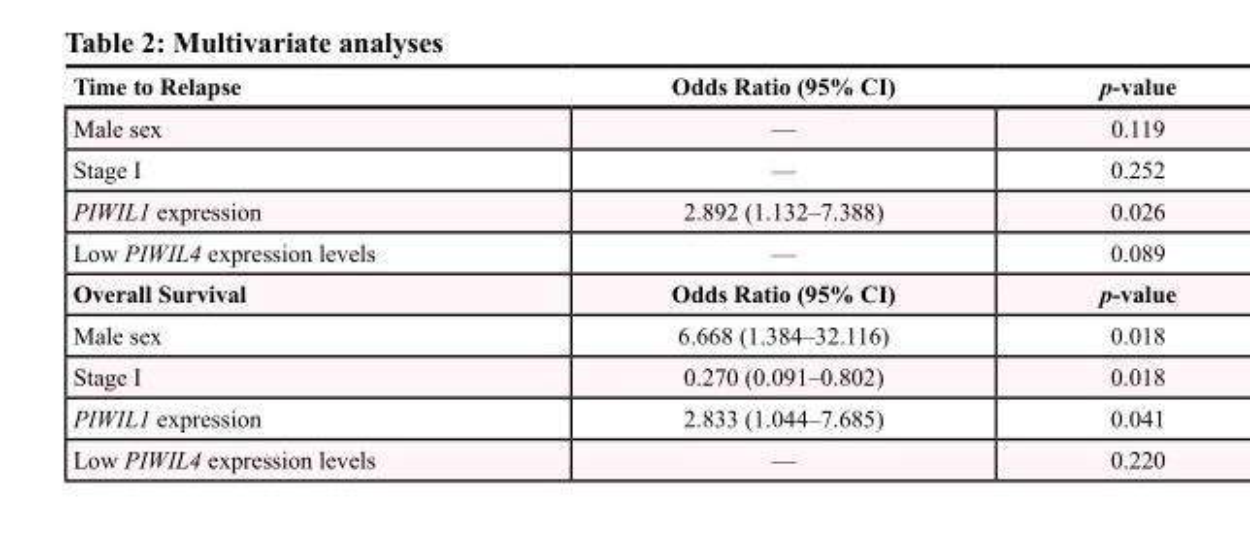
<table><thead><tr><td>Time to Relapse</td><td>Odds Ratio (95% CI)</td><td>p-value</td></tr></thead><tbody><tr><td>Male sex</td><td>—</td><td>0.119</td></tr><tr><td>Stage I</td><td>—</td><td>0.252</td></tr><tr><td>PIWIL1 expression</td><td>2.892 (1.132–7.388)</td><td>0.026</td></tr><tr><td>Low PIWIL4 expression levels</td><td>—</td><td>0.089</td></tr><tr><td>Overall Survival</td><td>Odds Ratio (95% CI)</td><td>p-value</td></tr><tr><td>Male sex</td><td>6.668 (1.384–32.116)</td><td>0.018</td></tr><tr><td>Stage I</td><td>0.270 (0.091–0.802)</td><td>0.018</td></tr><tr><td>PIWIL1 expression</td><td>2.833 (1.044–7.685)</td><td>0.041</td></tr><tr><td>Low PIWIL4 expression levels</td><td>—</td><td>0.220</td></tr></tbody></table>